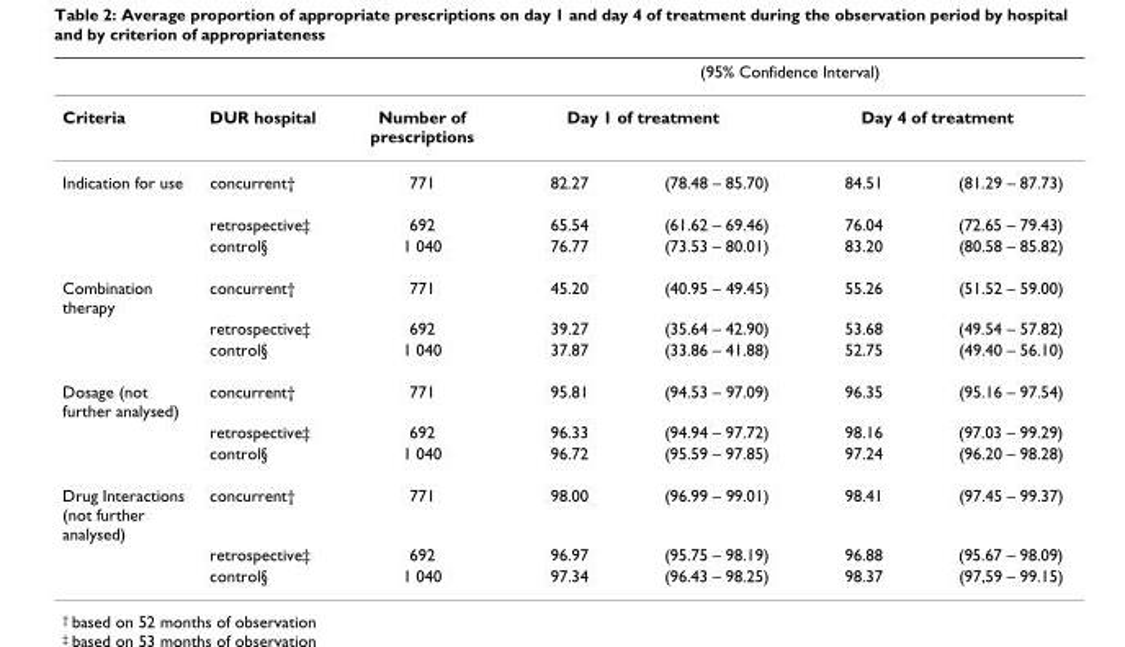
<table><thead><tr><td rowspan="3">Criteria Indication for use</td><td rowspan="3">DUR hospital concurrent†</td><td rowspan="3">Number of prescriptions 771</td><td colspan="4">(95% Confidence Interval)</td></tr><tr><td colspan="2">Day 1 of treatment</td><td colspan="2">Day 4 of treatment</td></tr><tr><td>82.27</td><td>(78.48 – 85.70)</td><td>84.51</td><td>(81.29 – 87.73)</td></tr></thead><tbody><tr><td></td><td>retrospective‡</td><td>692</td><td>65.54</td><td>(61.62 – 69.46)</td><td>76.04</td><td>(72.65 – 79.43)</td></tr><tr><td></td><td>control§</td><td>1 040</td><td>76.77</td><td>(73.53 – 80.01)</td><td>83.20</td><td>(80.58 – 85.82)</td></tr><tr><td rowspan="3">Combination therapy</td><td>concurrent†</td><td>771</td><td>45.20</td><td>(40.95 – 49.45)</td><td>55.26</td><td>(51.52 – 59.00)</td></tr><tr><td>retrospective‡</td><td>692</td><td>39.27</td><td>(35.64 – 42.90)</td><td>53.68</td><td>(49.54 – 57.82)</td></tr><tr><td>control§</td><td>1 040</td><td>37.87</td><td>(33.86 – 41.88)</td><td>52.75</td><td>(49.40 – 56.10)</td></tr><tr><td rowspan="3">Dosage (not further analysed)</td><td>concurrent†</td><td>771</td><td>95.81</td><td>(94.53 – 97.09)</td><td>96.35</td><td>(95.16 – 97.54)</td></tr><tr><td>retrospective‡</td><td>692</td><td>96.33</td><td>(94.94 – 97.72)</td><td>98.16</td><td>(97.03 – 99.29)</td></tr><tr><td>control§</td><td>1 040</td><td>96.72</td><td>(95.59 – 97.85)</td><td>97.24</td><td>(96.20 – 98.28)</td></tr><tr><td rowspan="3">Drug Interactions (not further analysed)</td><td>concurrent†</td><td>771</td><td>98.00</td><td>(96.99 – 99.01)</td><td>98.41</td><td>(97.45 – 99.37)</td></tr><tr><td>retrospective‡</td><td>692</td><td>96.97</td><td>(95.75 – 98.19)</td><td>96.88</td><td>(95.67 – 98.09)</td></tr><tr><td>control§</td><td>1 040</td><td>97.34</td><td>(96.43 – 98.25)</td><td>98.37</td><td>(97,59 – 99.15)</td></tr></tbody></table>